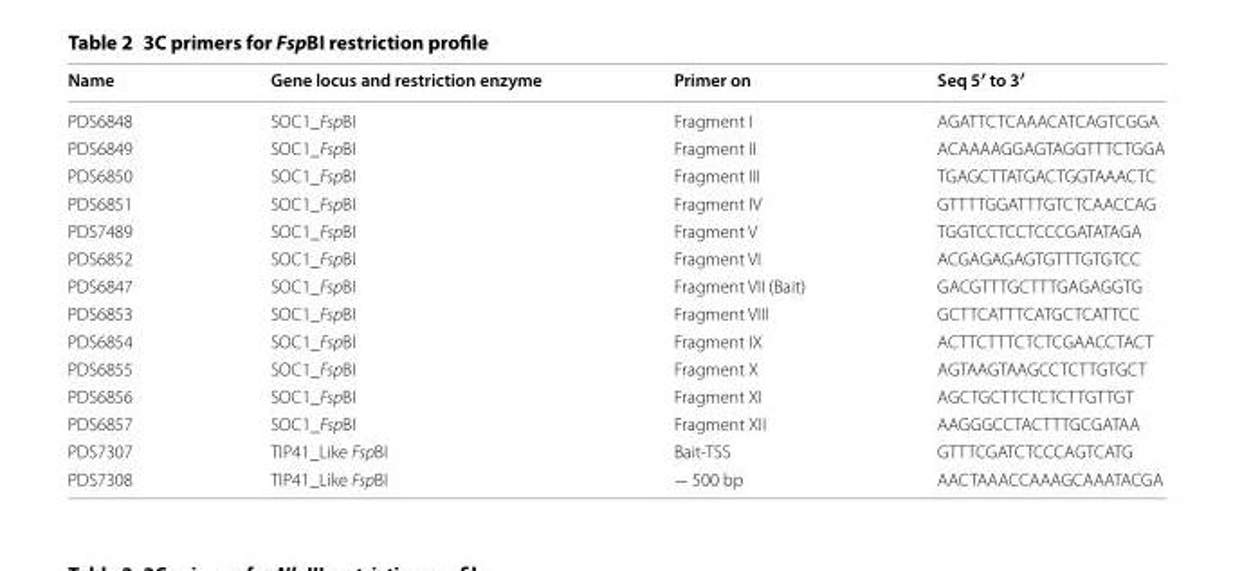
<table><thead><tr><td>Name</td><td>Gene locus and restriction enzyme</td><td>Primer on</td><td>Seq 5′ to 3′</td></tr></thead><tbody><tr><td>PDS6848</td><td>SOC1_FspBI</td><td>Fragment I</td><td>AGATTCTCAAACATCAGTCGGA</td></tr><tr><td>PDS6849</td><td>SOC1_FspBI</td><td>Fragment II</td><td>ACAAAAGGAGTAGGTTTCTGGA</td></tr><tr><td>PDS6850</td><td>SOC1_FspBI</td><td>Fragment III</td><td>TGAGCTTATGACTGGTAAACTC</td></tr><tr><td>PDS6851</td><td>SOC1_FspBI</td><td>Fragment IV</td><td>GTTTTGGATTTGTCTCAACCAG</td></tr><tr><td>PDS7489</td><td>SOC1_FspBI</td><td>Fragment V</td><td>TGGTCCTCCTCCCGATATAGA</td></tr><tr><td>PDS6852</td><td>SOC1_FspBI</td><td>Fragment VI</td><td>ACGAGAGAGTGTTTGTGTCC</td></tr><tr><td>PDS6847</td><td>SOC1_FspBI</td><td>Fragment VII (Bait)</td><td>GACGTTTGCTTTGAGAGGTG</td></tr><tr><td>PDS6853</td><td>SOC1_FspBI</td><td>Fragment VIII</td><td>GCTTCATTTCATGCTCATTCC</td></tr><tr><td>PDS6854</td><td>SOC1_FspBI</td><td>Fragment IX</td><td>ACTTCTTTCTCTCGAACCTACT</td></tr><tr><td>PDS6855</td><td>SOC1_FspBI</td><td>Fragment X</td><td>AGTAAGTAAGCCTCTTGTGCT</td></tr><tr><td>PDS6856</td><td>SOC1_FspBI</td><td>Fragment XI</td><td>AGCTGCTTCTCTCTTGTTGT</td></tr><tr><td>PDS6857</td><td>SOC1_FspBI</td><td>Fragment XII</td><td>AAGGGCCTACTTTGCGATAA</td></tr><tr><td>PDS7307</td><td>TIP41_Like FspBI</td><td>Bait-TSS</td><td>GTTTCGATCTCCCAGTCATG</td></tr><tr><td>PDS7308</td><td>TIP41_Like FspBI</td><td>− 500 bp</td><td>AACTAAACCAAAGCAAATACGA</td></tr></tbody></table>